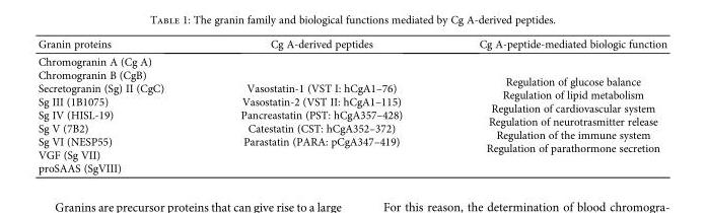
<table><thead><tr><td>Granin proteins</td><td>Cg A-derived peptides</td><td>Cg A-peptide-mediated biologic function</td></tr></thead><tbody><tr><td>Chromogranin A (Cg A) Chromogranin B (CgB) Secretogranin (Sg) II (CgC) Sg III (1B1075) Sg IV (HISL-19) Sg V (7B2) Sg VI (NESP55) VGF (Sg VII) proSAAS (SgVIII)</td><td>Vasostatin-1 (VST I: hCgA1–76) Vasostatin-2 (VST II: hCgA1–115) Pancreastatin (PST: hCgA357–428) Catestatin (CST: hCgA352–372) Parastatin (PARA: pCgA347–419)</td><td>Regulation of glucose balance Regulation of lipid metabolism Regulation of cardiovascular system Regulation of neurotrasmitter release Regulation of the immune system Regulation of parathormone secretion</td></tr></tbody></table>